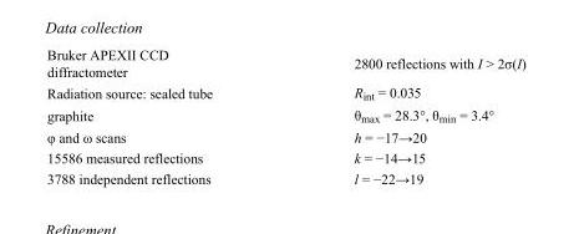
<table><tbody><tr><td>Bruker APEXII CCD diffractometer</td><td>2800 reflections with I &gt; 2σ(I)</td></tr><tr><td>Radiation source: sealed tube</td><td>R<sub>int</sub> = 0.035</td></tr><tr><td>graphite</td><td>θ<sub>max</sub> = 28.3°, θ<sub>min</sub> = 3.4°</td></tr><tr><td>φ and ω scans</td><td>h = −17→20</td></tr><tr><td>15586 measured reflections</td><td>k = −14→15</td></tr><tr><td>3788 independent reflections</td><td>l = −22→19</td></tr></tbody></table>